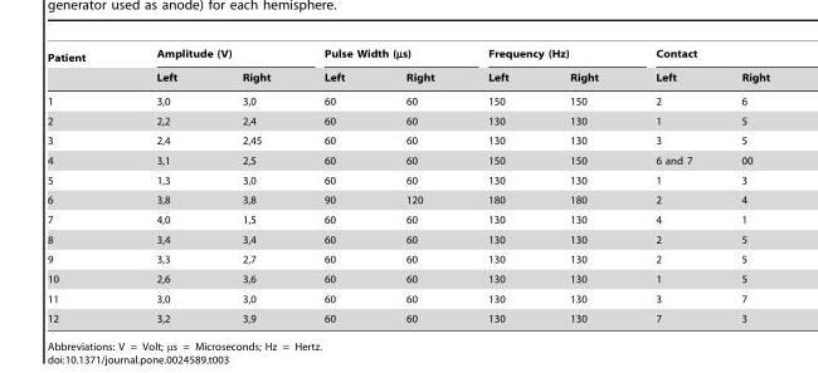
<table><thead><tr><td rowspan="2">Patient</td><td colspan="2">Amplitude (V)</td><td colspan="2">Pulse Width (µs)</td><td colspan="2">Frequency (Hz)</td><td colspan="2">Contact</td></tr><tr><td>Left</td><td>Right</td><td>Left</td><td>Right</td><td>Left</td><td>Right</td><td>Left</td><td>Right</td></tr></thead><tbody><tr><td>1</td><td>3,0</td><td>3,0</td><td>60</td><td>60</td><td>150</td><td>150</td><td>2</td><td>6</td></tr><tr><td>2</td><td>2,2</td><td>2,4</td><td>60</td><td>60</td><td>130</td><td>130</td><td>1</td><td>5</td></tr><tr><td>3</td><td>2,4</td><td>2,45</td><td>60</td><td>60</td><td>130</td><td>130</td><td>3</td><td>5</td></tr><tr><td>4</td><td>3,1</td><td>2,5</td><td>60</td><td>60</td><td>150</td><td>150</td><td>6 and 7</td><td>00</td></tr><tr><td>5</td><td>1,3</td><td>3,0</td><td>60</td><td>60</td><td>130</td><td>130</td><td>1</td><td>3</td></tr><tr><td>6</td><td>3,8</td><td>3,8</td><td>90</td><td>120</td><td>180</td><td>180</td><td>2</td><td>4</td></tr><tr><td>7</td><td>4,0</td><td>1,5</td><td>60</td><td>60</td><td>130</td><td>130</td><td>4</td><td>1</td></tr><tr><td>8</td><td>3,4</td><td>3,4</td><td>60</td><td>60</td><td>130</td><td>130</td><td>2</td><td>5</td></tr><tr><td>9</td><td>3,3</td><td>2,7</td><td>60</td><td>60</td><td>130</td><td>130</td><td>2</td><td>5</td></tr><tr><td>10</td><td>2,6</td><td>3,6</td><td>60</td><td>60</td><td>130</td><td>130</td><td>1</td><td>5</td></tr><tr><td>11</td><td>3,0</td><td>3,0</td><td>60</td><td>60</td><td>130</td><td>130</td><td>3</td><td>7</td></tr><tr><td>12</td><td>3,2</td><td>3,9</td><td>60</td><td>60</td><td>130</td><td>130</td><td>7</td><td>3</td></tr></tbody></table>